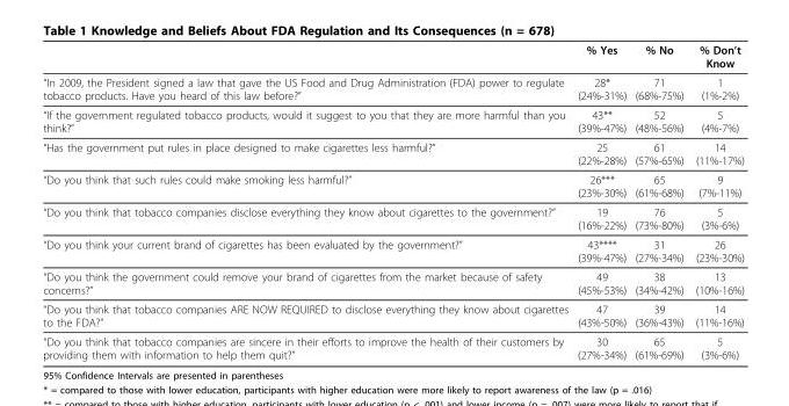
<table><thead><tr><td></td><td>% Yes</td><td>% No</td><td>% Don’t Know</td></tr></thead><tbody><tr><td>“In 2009, the President signed a law that gave the US Food and Drug Administration (FDA) power to regulate tobacco products. Have you heard of this law before?”</td><td>28* (24%-31%)</td><td>71 (68%-75%)</td><td>1 (1%-2%)</td></tr><tr><td>“If the government regulated tobacco products, would it suggest to you that they are more harmful than you think?”</td><td>43** (39%-47%)</td><td>52 (48%-56%)</td><td>5 (4%-7%)</td></tr><tr><td>“Has the government put rules in place designed to make cigarettes less harmful?”</td><td>25 (22%-28%)</td><td>61 (57%-65%)</td><td>14 (11%-17%)</td></tr><tr><td>“Do you think that such rules could make smoking less harmful?”</td><td>26*** (23%-30%)</td><td>65 (61%-68%)</td><td>9 (7%-11%)</td></tr><tr><td>“Do you think that tobacco companies disclose everything they know about cigarettes to the government?”</td><td>19 (16%-22%)</td><td>76 (73%-80%)</td><td>5 (3%-6%)</td></tr><tr><td>“Do you think your current brand of cigarettes has been evaluated by the government?”</td><td>43**** (39%-47%)</td><td>31 (27%-34%)</td><td>26 (23%-30%)</td></tr><tr><td>“Do you think the government could remove your brand of cigarettes from the market because of safety concerns?”</td><td>49 (45%-53%)</td><td>38 (34%-42%)</td><td>13 (10%-16%)</td></tr><tr><td>“Do you think that tobacco companies ARE NOW REQUIRED to disclose everything they know about cigarettes to the FDA?”</td><td>47 (43%-50%)</td><td>39 (36%-43%)</td><td>14 (11%-16%)</td></tr><tr><td>“Do you think that tobacco companies are sincere in their efforts to improve the health of their customers by providing them with information to help them quit?”</td><td>30 (27%-34%)</td><td>65 (61%-69%)</td><td>5 (3%-6%)</td></tr></tbody></table>